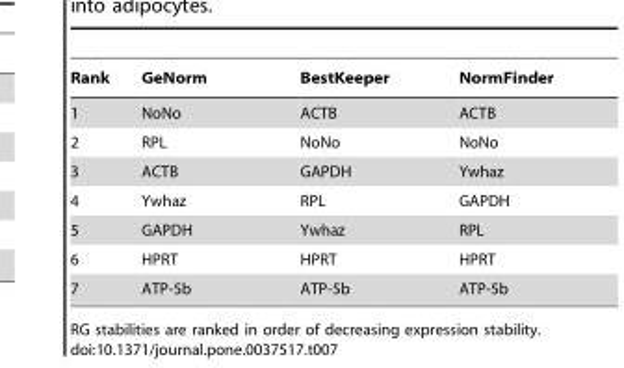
<table><thead><tr><td>Rank</td><td>GeNorm</td><td>BestKeeper</td><td>NormFinder</td></tr></thead><tbody><tr><td>1</td><td>NoNo</td><td>ACTB</td><td>ACTB</td></tr><tr><td>2</td><td>RPL</td><td>NoNo</td><td>NoNo</td></tr><tr><td>3</td><td>ACTB</td><td>GAPDH</td><td>Ywhaz</td></tr><tr><td>4</td><td>Ywhaz</td><td>RPL</td><td>GAPDH</td></tr><tr><td>5</td><td>GAPDH</td><td>Ywhaz</td><td>RPL</td></tr><tr><td>6</td><td>HPRT</td><td>HPRT</td><td>HPRT</td></tr><tr><td>7</td><td>ATP-5b</td><td>ATP-5b</td><td>ATP-5b</td></tr></tbody></table>